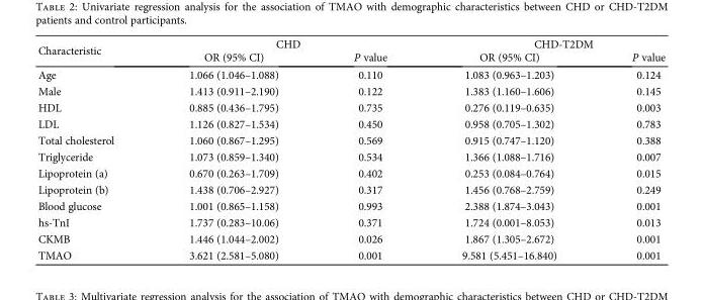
<table><thead><tr><td rowspan="2">Characteristic</td><td colspan="2">CHD</td><td colspan="2">CHD-T2DM</td></tr><tr><td>OR (95% CI)</td><td>P value</td><td>OR (95% CI)</td><td>P value</td></tr></thead><tbody><tr><td>Age</td><td>1.066 (1.046–1.088)</td><td>0.110</td><td>1.083 (0.963–1.203)</td><td>0.124</td></tr><tr><td>Male</td><td>1.413 (0.911–2.190)</td><td>0.122</td><td>1.383 (1.160–1.606)</td><td>0.145</td></tr><tr><td>HDL</td><td>0.885 (0.436–1.795)</td><td>0.735</td><td>0.276 (0.119–0.635)</td><td>0.003</td></tr><tr><td>LDL</td><td>1.126 (0.827–1.534)</td><td>0.450</td><td>0.958 (0.705–1.302)</td><td>0.783</td></tr><tr><td>Total cholesterol</td><td>1.060 (0.867–1.295)</td><td>0.569</td><td>0.915 (0.747–1.120)</td><td>0.388</td></tr><tr><td>Triglyceride</td><td>1.073 (0.859–1.340)</td><td>0.534</td><td>1.366 (1.088–1.716)</td><td>0.007</td></tr><tr><td>Lipoprotein (a)</td><td>0.670 (0.263–1.709)</td><td>0.402</td><td>0.253 (0.084–0.764)</td><td>0.015</td></tr><tr><td>Lipoprotein (b)</td><td>1.438 (0.706–2.927)</td><td>0.317</td><td>1.456 (0.768–2.759)</td><td>0.249</td></tr><tr><td>Blood glucose</td><td>1.001 (0.865–1.158)</td><td>0.993</td><td>2.388 (1.874–3.043)</td><td>0.001</td></tr><tr><td>hs-TnI</td><td>1.737 (0.283–10.06)</td><td>0.371</td><td>1.724 (0.001–8.053)</td><td>0.013</td></tr><tr><td>CKMB</td><td>1.446 (1.044–2.002)</td><td>0.026</td><td>1.867 (1.305–2.672)</td><td>0.001</td></tr><tr><td>TMAO</td><td>3.621 (2.581–5.080)</td><td>0.001</td><td>9.581 (5.451–16.840)</td><td>0.001</td></tr></tbody></table>